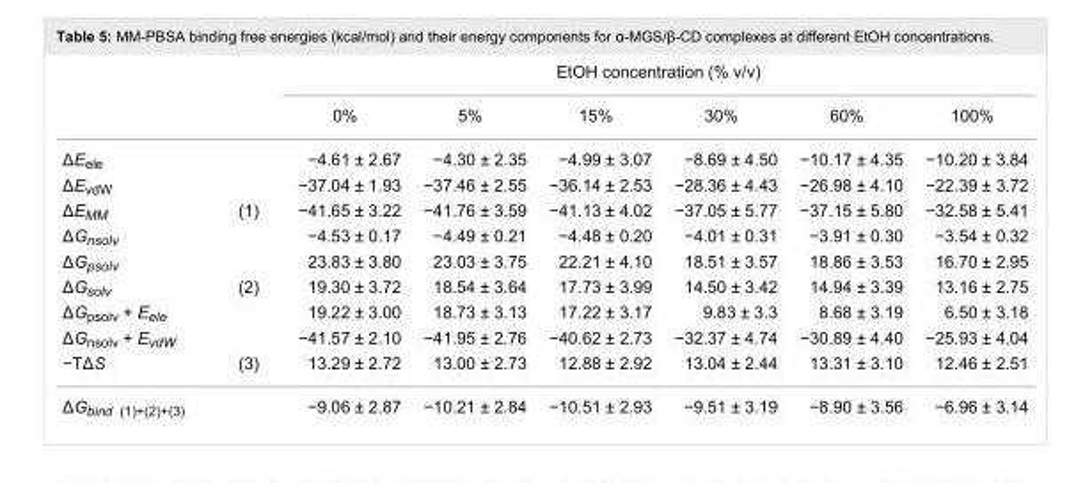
<table><thead><tr><td></td><td></td><td colspan="6">EtOH concentration (% v/v)</td></tr><tr><td colspan="2"></td><td>0%</td><td>5%</td><td>15%</td><td>30%</td><td>60%</td><td>100%</td></tr></thead><tbody><tr><td>ΔE<sub>ele</sub></td><td></td><td>−4.61 ± 2.67</td><td>−4.30 ± 2.35</td><td>−4.99 ± 3.07</td><td>−8.69 ± 4.50</td><td>−10.17 ± 4.35</td><td>−10.20 ± 3.84</td></tr><tr><td>ΔE<sub>vdW</sub></td><td></td><td>−37.04 ± 1.93</td><td>−37.46 ± 2.55</td><td>−36.14 ± 2.53</td><td>−28.36 ± 4.43</td><td>−26.98 ± 4.10</td><td>−22.39 ± 3.72</td></tr><tr><td>ΔE<sub>MM</sub></td><td>(1)</td><td>−41.65 ± 3.22</td><td>−41.76 ± 3.59</td><td>−41.13 ± 4.02</td><td>−37.05 ± 5.77</td><td>−37.15 ± 5.80</td><td>−32.58 ± 5.41</td></tr><tr><td>ΔG<sub>nsolv</sub></td><td></td><td>−4.53 ± 0.17</td><td>−4.49 ± 0.21</td><td>−4.48 ± 0.20</td><td>−4.01 ± 0.31</td><td>−3.91 ± 0.30</td><td>−3.54 ± 0.32</td></tr><tr><td>ΔG<sub>psolv</sub></td><td></td><td>23.83 ± 3.80</td><td>23.03 ± 3.75</td><td>22.21 ± 4.10</td><td>18.51 ± 3.57</td><td>18.86 ± 3.53</td><td>16.70 ± 2.95</td></tr><tr><td>ΔG<sub>solv</sub></td><td>(2)</td><td>19.30 ± 3.72</td><td>18.54 ± 3.64</td><td>17.73 ± 3.99</td><td>14.50 ± 3.42</td><td>14.94 ± 3.39</td><td>13.16 ± 2.75</td></tr><tr><td>ΔG<sub>psolv</sub> + E<sub>ele</sub></td><td></td><td>19.22 ± 3.00</td><td>18.73 ± 3.13</td><td>17.22 ± 3.17</td><td>9.83 ± 3.3</td><td>8.68 ± 3.19</td><td>6.50 ± 3.18</td></tr><tr><td>ΔG<sub>nsolv</sub> + E<sub>vdW</sub></td><td></td><td>−41.57 ± 2.10</td><td>−41.95 ± 2.76</td><td>−40.62 ± 2.73</td><td>−32.37 ± 4.74</td><td>−30.89 ± 4.40</td><td>−25.93 ± 4.04</td></tr><tr><td>−TΔS</td><td>(3)</td><td>13.29 ± 2.72</td><td>13.00 ± 2.73</td><td>12.88 ± 2.92</td><td>13.04 ± 2.44</td><td>13.31 ± 3.10</td><td>12.46 ± 2.51</td></tr><tr><td>ΔG<sub>bind (1)+(2)+(3)</sub></td><td></td><td>−9.06 ± 2.87</td><td>−10.21 ± 2.84</td><td>−10.51 ± 2.93</td><td>−9.51 ± 3.19</td><td>−8.90 ± 3.56</td><td>−6.96 ± 3.14</td></tr></tbody></table>